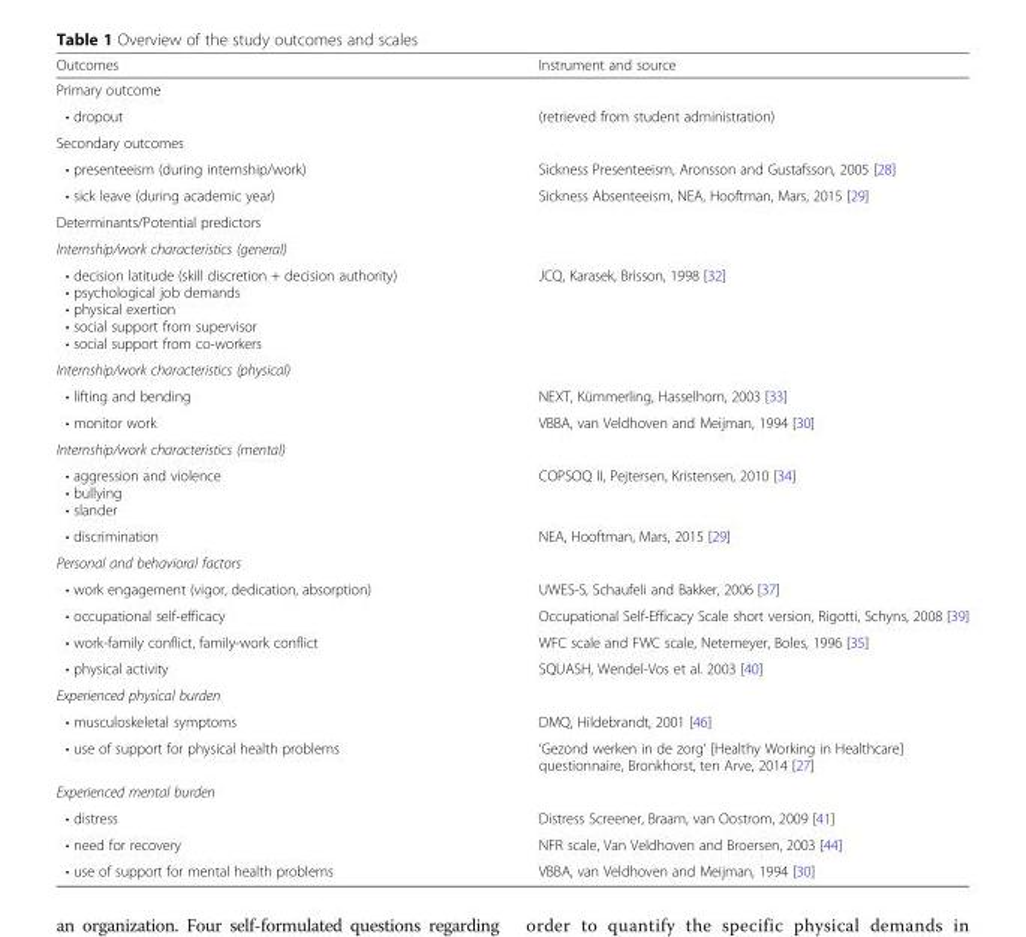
<table><thead><tr><td>Outcomes</td><td>Instrument and source</td></tr></thead><tbody><tr><td colspan="2">Primary outcome</td></tr><tr><td>• dropout</td><td>(retrieved from student administration)</td></tr><tr><td colspan="2">Secondary outcomes</td></tr><tr><td>• presenteeism (during internship/work)</td><td>Sickness Presenteeism, Aronsson and Gustafsson, 2005 [28]</td></tr><tr><td>• sick leave (during academic year)</td><td>Sickness Absenteeism, NEA, Hooftman, Mars, 2015 [29]</td></tr><tr><td colspan="2">Determinants/Potential predictors</td></tr><tr><td colspan="2">Internship/work characteristics (general)</td></tr><tr><td>• decision latitude (skill discretion + decision authority) • psychological job demands • physical exertion • social support from supervisor • social support from co-workers</td><td>JCQ, Karasek, Brisson, 1998 [32]</td></tr><tr><td colspan="2">Internship/work characteristics (physical)</td></tr><tr><td>• lifting and bending</td><td>NEXT, Kümmerling, Hasselhorn, 2003 [33]</td></tr><tr><td>• monitor work</td><td>VBBA, van Veldhoven and Meijman, 1994 [30]</td></tr><tr><td colspan="2">Internship/work characteristics (mental)</td></tr><tr><td>• aggression and violence • bullying • slander</td><td>COPSOQ II, Pejtersen, Kristensen, 2010 [34]</td></tr><tr><td>• discrimination</td><td>NEA, Hooftman, Mars, 2015 [29]</td></tr><tr><td colspan="2">Personal and behavioral factors</td></tr><tr><td>• work engagement (vigor, dedication, absorption)</td><td>UWES-S, Schaufeli and Bakker, 2006 [37]</td></tr><tr><td>• occupational self-efficacy</td><td>Occupational Self-Efficacy Scale short version, Rigotti, Schyns, 2008 [39]</td></tr><tr><td>• work-family conflict, family-work conflict</td><td>WFC scale and FWC scale, Netemeyer, Boles, 1996 [35]</td></tr><tr><td>• physical activity</td><td>SQUASH, Wendel-Vos et al. 2003 [40]</td></tr><tr><td colspan="2">Experienced physical burden</td></tr><tr><td>• musculoskeletal symptoms</td><td>DMQ, Hildebrandt, 2001 [46]</td></tr><tr><td>• use of support for physical health problems</td><td>‘Gezond werken in de zorg’ [Healthy Working in Healthcare] questionnaire, Bronkhorst, ten Arve, 2014 [27]</td></tr><tr><td colspan="2">Experienced mental burden</td></tr><tr><td>• distress</td><td>Distress Screener, Braam, van Oostrom, 2009 [41]</td></tr><tr><td>• need for recovery</td><td>NFR scale, Van Veldhoven and Broersen, 2003 [44]</td></tr><tr><td>• use of support for mental health problems</td><td>VBBA, van Veldhoven and Meijman, 1994 [30]</td></tr></tbody></table>